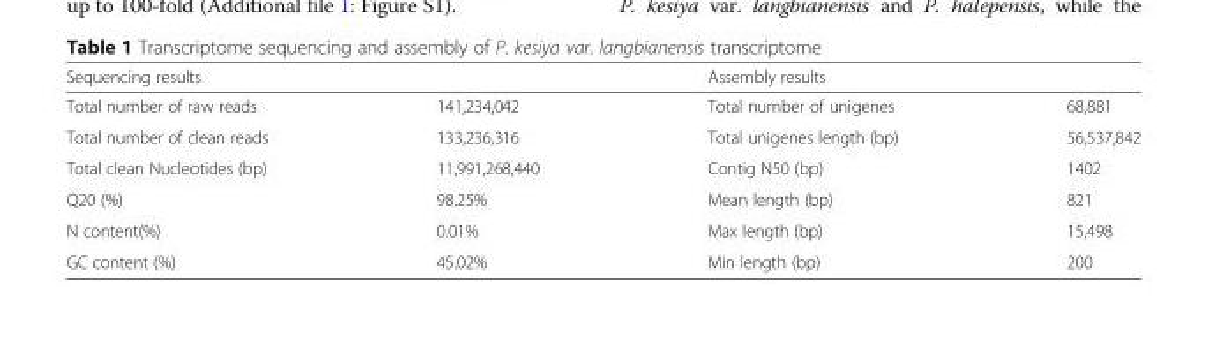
<table><thead><tr><td colspan="2">Sequencing results</td><td colspan="2">Assembly results</td></tr><tr><td>Total number of raw reads</td><td>141,234,042</td><td>Total number of unigenes</td><td>68,881</td></tr></thead><tbody><tr><td>Total number of clean reads</td><td>133,236,316</td><td>Total unigenes length (bp)</td><td>56,537,842</td></tr><tr><td>Total clean Nucleotides (bp)</td><td>11,991,268,440</td><td>Contig N50 (bp)</td><td>1402</td></tr><tr><td>Q20 (%)</td><td>98.25%</td><td>Mean length (bp)</td><td>821</td></tr><tr><td>N content(%)</td><td>0.01%</td><td>Max length (bp)</td><td>15,498</td></tr><tr><td>GC content (%)</td><td>45.02%</td><td>Min length (bp)</td><td>200</td></tr></tbody></table>